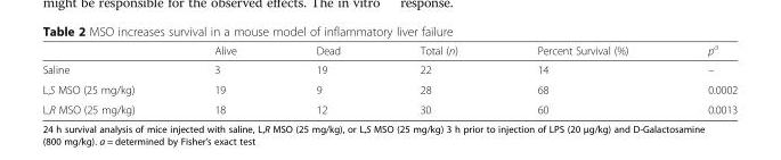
<table><thead><tr><td></td><td>Alive</td><td>Dead</td><td>Total (n)</td><td>Percent Survival (%)</td><td>p<sup>a</sup></td></tr></thead><tbody><tr><td>Saline</td><td>3</td><td>19</td><td>22</td><td>14</td><td>–</td></tr><tr><td>L,S MSO (25 mg/kg)</td><td>19</td><td>9</td><td>28</td><td>68</td><td>0.0002</td></tr><tr><td>L,R MSO (25 mg/kg)</td><td>18</td><td>12</td><td>30</td><td>60</td><td>0.0013</td></tr></tbody></table>